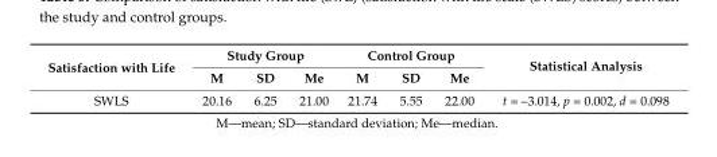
<table><thead><tr><td rowspan="2">Satisfaction with Life</td><td colspan="3">Study Group</td><td colspan="3">Control Group</td><td rowspan="2">Statistical Analysis</td></tr><tr><td>M</td><td>SD</td><td>Me</td><td>M</td><td>SD</td><td>Me</td></tr></thead><tbody><tr><td>SWLS</td><td>20.16</td><td>6.25</td><td>21.00</td><td>21.74</td><td>5.55</td><td>22.00</td><td>t = –3.014, p = 0.002, d = 0.098</td></tr></tbody></table>